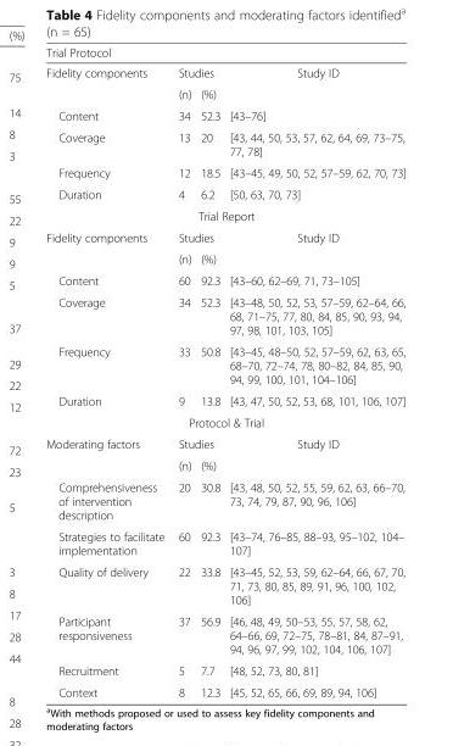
<table><thead><tr><td colspan="4">Trial Protocol</td></tr><tr><td rowspan="2">Fidelity components</td><td colspan="2">Studies</td><td rowspan="2">Study ID</td></tr><tr><td>(n)</td><td>(%)</td></tr></thead><tbody><tr><td>Content</td><td>34</td><td>52.3</td><td>[43–76]</td></tr><tr><td>Coverage</td><td>13</td><td>20</td><td>[43, 44, 50, 53, 57, 62, 64, 69, 73–75, 77, 78]</td></tr><tr><td>Frequency</td><td>12</td><td>18.5</td><td>[43–45, 49, 50, 52, 57–59, 62, 70, 73]</td></tr><tr><td>Duration</td><td>4</td><td>6.2</td><td>[50, 63, 70, 73]</td></tr><tr><td colspan="4">Trial Report</td></tr><tr><td rowspan="2">Fidelity components</td><td colspan="2">Studies</td><td rowspan="2">Study ID</td></tr><tr><td>(n)</td><td>(%)</td></tr><tr><td>Content</td><td>60</td><td>92.3</td><td>[43–60, 62–69, 71, 73–105]</td></tr><tr><td>Coverage</td><td>34</td><td>52.3</td><td>[43–48, 50, 52, 53, 57–59, 62–64, 66, 68, 71–75, 77, 80, 84, 85, 90, 93, 94, 97, 98, 101, 103, 105]</td></tr><tr><td>Frequency</td><td>33</td><td>50.8</td><td>[43–45, 48–50, 52, 57–59, 62, 63, 65, 68–70, 72–74, 78, 80–82, 84, 85, 90, 94, 99, 100, 101, 104–106]</td></tr><tr><td>Duration</td><td>9</td><td>13.8</td><td>[43, 47, 50, 52, 53, 68, 101, 106, 107]</td></tr><tr><td colspan="4">Protocol &amp; Trial</td></tr><tr><td rowspan="2">Moderating factors</td><td colspan="2">Studies</td><td rowspan="2">Study ID</td></tr><tr><td>(n)</td><td>(%)</td></tr><tr><td>Comprehensiveness of intervention description</td><td>20</td><td>30.8</td><td>[43, 48, 50, 52, 55, 59, 62, 63, 66–70, 73, 74, 79, 87, 90, 96, 106]</td></tr><tr><td>Strategies to facilitate implementation</td><td>60</td><td>92.3</td><td>[43–74, 76–85, 88–93, 95–102, 104– 107]</td></tr><tr><td>Quality of delivery</td><td>22</td><td>33.8</td><td>[43–45, 52, 53, 59, 62–64, 66, 67, 70, 71, 73, 80, 85, 89, 91, 96, 100, 102, 106]</td></tr><tr><td>Participant responsiveness</td><td>37</td><td>56.9</td><td>[46, 48, 49, 50–53, 55, 57, 58, 62, 64–66, 69, 72–75, 78–81, 84, 87–91, 94, 96, 97, 99, 102, 104, 106, 107]</td></tr><tr><td>Recruitment</td><td>5</td><td>7.7</td><td>[48, 52, 73, 80, 81]</td></tr><tr><td>Context</td><td>8</td><td>12.3</td><td>[45, 52, 65, 66, 69, 89, 94, 106]</td></tr></tbody></table>